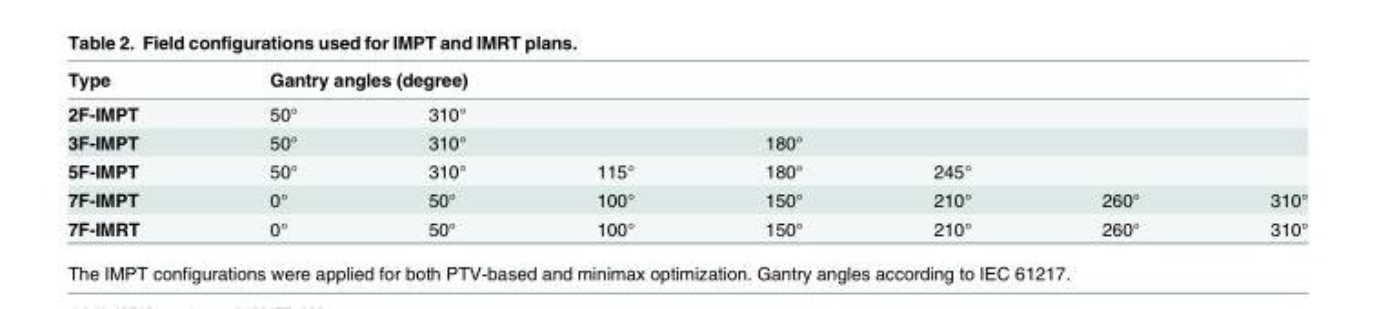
<table><thead><tr><td rowspan="2">Type 2F-IMPT</td><td colspan="7">Gantry angles (degree)</td></tr><tr><td>50°</td><td>310°</td><td></td><td></td><td></td><td></td><td></td></tr></thead><tbody><tr><td>3F-IMPT</td><td>50°</td><td>310°</td><td></td><td>180°</td><td></td><td></td><td></td></tr><tr><td>5F-IMPT</td><td>50°</td><td>310°</td><td>115°</td><td>180°</td><td>245°</td><td></td><td></td></tr><tr><td>7F-IMPT</td><td>0°</td><td>50°</td><td>100°</td><td>150°</td><td>210°</td><td>260°</td><td>310°</td></tr><tr><td>7F-IMRT</td><td>0°</td><td>50°</td><td>100°</td><td>150°</td><td>210°</td><td>260°</td><td>310°</td></tr></tbody></table>